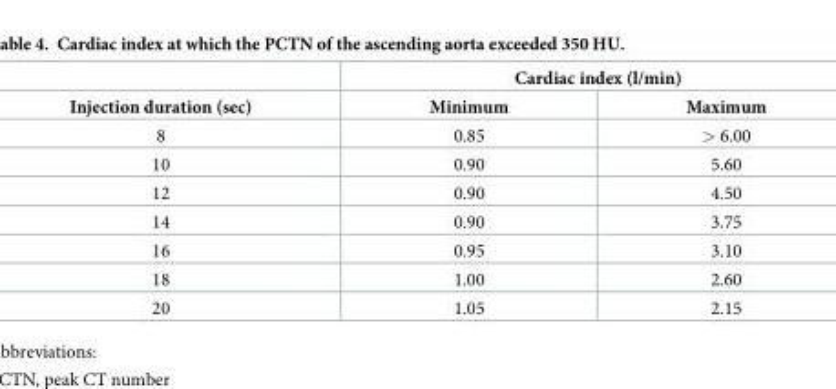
<table><thead><tr><td rowspan="2">Injection duration (sec)</td><td colspan="2">Cardiac index (l/min)</td></tr><tr><td>Minimum</td><td>Maximum</td></tr></thead><tbody><tr><td>8</td><td>0.85</td><td>&gt; 6.00</td></tr><tr><td>10</td><td>0.90</td><td>5.60</td></tr><tr><td>12</td><td>0.90</td><td>4.50</td></tr><tr><td>14</td><td>0.90</td><td>3.75</td></tr><tr><td>16</td><td>0.95</td><td>3.10</td></tr><tr><td>18</td><td>1.00</td><td>2.60</td></tr><tr><td>20</td><td>1.05</td><td>2.15</td></tr></tbody></table>